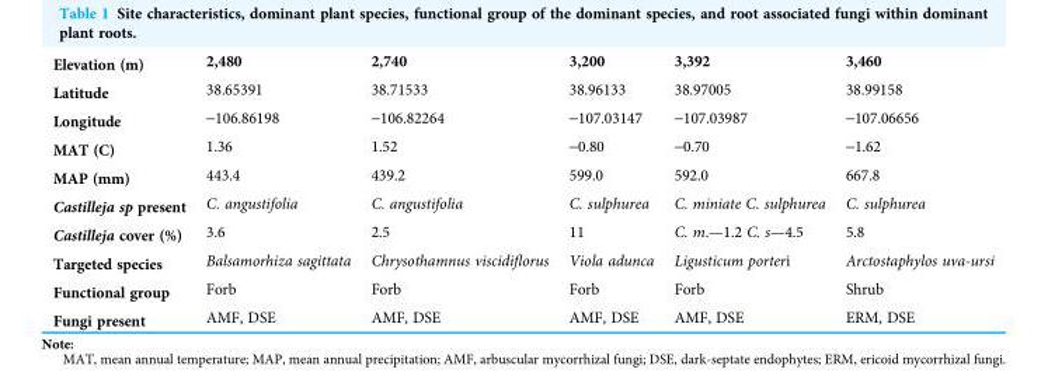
<table><tbody><tr><td>Elevation (m)</td><td>2,480</td><td>2,740</td><td>3,200</td><td>3,392</td><td>3,460</td></tr><tr><td>Latitude</td><td>38.65391</td><td>38.71533</td><td>38.96133</td><td>38.97005</td><td>38.99158</td></tr><tr><td>Longitude</td><td>-106.86198</td><td>-106.82264</td><td>-107.03147</td><td>-107.03987</td><td>-107.06656</td></tr><tr><td>MAT (C)</td><td>1.36</td><td>1.52</td><td>-0.80</td><td>-0.70</td><td>-1.62</td></tr><tr><td>MAP (mm)</td><td>443.4</td><td>439.2</td><td>599.0</td><td>592.0</td><td>667.8</td></tr><tr><td>Castilleja sp present</td><td>C. angustifolia</td><td>C. angustifolia</td><td>C. sulphurea</td><td>C. miniate C. sulphurea</td><td>C. sulphurea</td></tr><tr><td>Castilleja cover (%)</td><td>3.6</td><td>2.5</td><td>11</td><td>C. m.—1.2 C. s—4.5</td><td>5.8</td></tr><tr><td>Targeted species</td><td>Balsamorhiza sagittata</td><td>Chrysothamnus viscidiflorus</td><td>Viola adunca</td><td>Ligusticum porteri</td><td>Arctostaphylos uva-ursi</td></tr><tr><td>Functional group</td><td>Forb</td><td>Forb</td><td>Forb</td><td>Forb</td><td>Shrub</td></tr><tr><td>Fungi present</td><td>AMF, DSE</td><td>AMF, DSE</td><td>AMF, DSE</td><td>AMF, DSE</td><td>ERM, DSE</td></tr></tbody></table>